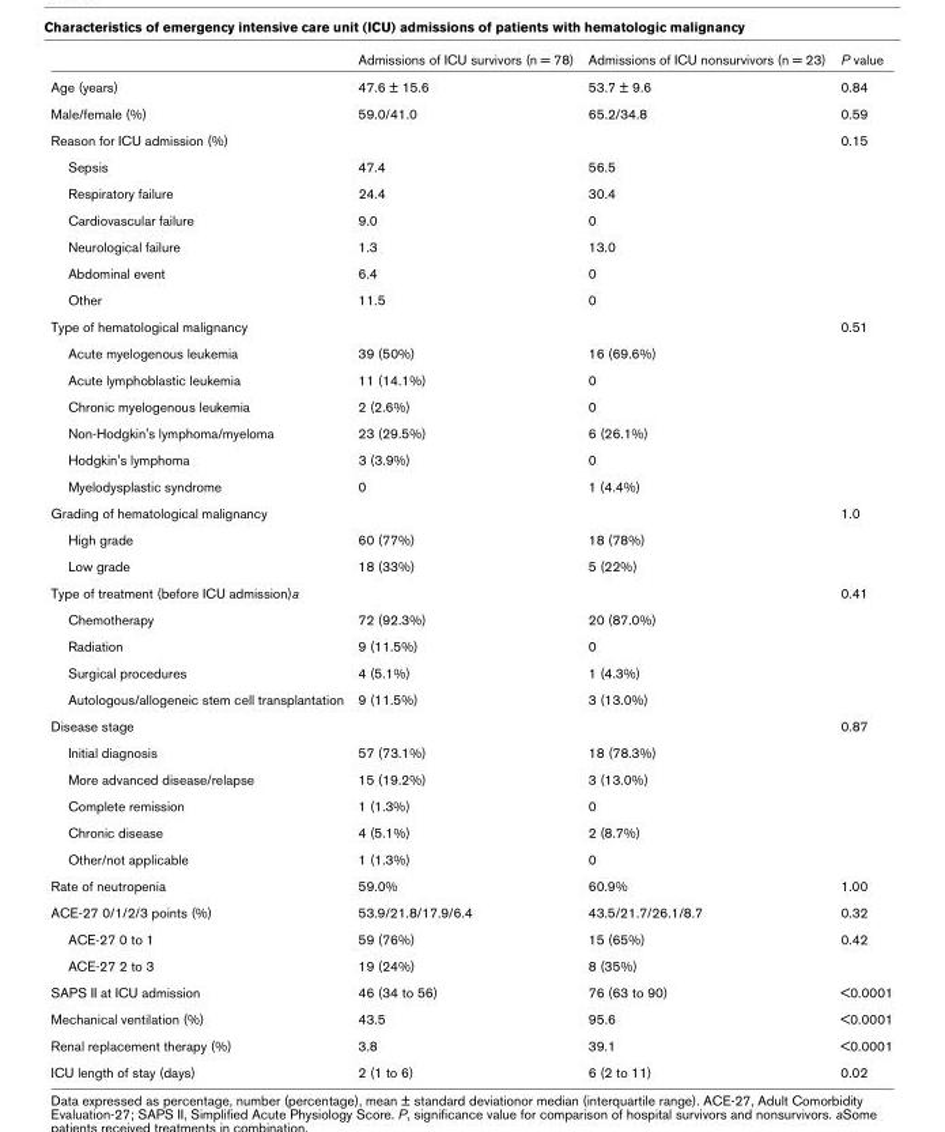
<table><thead><tr><td></td><td>Admissions of ICU survivors (n = 78)</td><td>Admissions of ICU nonsurvivors (n = 23)</td><td>P value</td></tr></thead><tbody><tr><td>Age (years)</td><td>47.6 ± 15.6</td><td>53.7 ± 9.6</td><td>0.84</td></tr><tr><td>Male/female (%)</td><td>59.0/41.0</td><td>65.2/34.8</td><td>0.59</td></tr><tr><td>Reason for ICU admission (%)</td><td></td><td></td><td>0.15</td></tr><tr><td>Sepsis</td><td>47.4</td><td>56.5</td><td></td></tr><tr><td>Respiratory failure</td><td>24.4</td><td>30.4</td><td></td></tr><tr><td>Cardiovascular failure</td><td>9.0</td><td>0</td><td></td></tr><tr><td>Neurological failure</td><td>1.3</td><td>13.0</td><td></td></tr><tr><td>Abdominal event</td><td>6.4</td><td>0</td><td></td></tr><tr><td>Other</td><td>11.5</td><td>0</td><td></td></tr><tr><td>Type of hematological malignancy</td><td></td><td></td><td>0.51</td></tr><tr><td>Acute myelogenous leukemia</td><td>39 (50%)</td><td>16 (69.6%)</td><td></td></tr><tr><td>Acute lymphoblastic leukemia</td><td>11 (14.1%)</td><td>0</td><td></td></tr><tr><td>Chronic myelogenous leukemia</td><td>2 (2.6%)</td><td>0</td><td></td></tr><tr><td>Non-Hodgkin&#x27;s lymphoma/myeloma</td><td>23 (29.5%)</td><td>6 (26.1%)</td><td></td></tr><tr><td>Hodgkin&#x27;s lymphoma</td><td>3 (3.9%)</td><td>0</td><td></td></tr><tr><td>Myelodysplastic syndrome</td><td>0</td><td>1 (4.4%)</td><td></td></tr><tr><td>Grading of hematological malignancy</td><td></td><td></td><td>1.0</td></tr><tr><td>High grade</td><td>60 (77%)</td><td>18 (78%)</td><td></td></tr><tr><td>Low grade</td><td>18 (33%)</td><td>5 (22%)</td><td></td></tr><tr><td>Type of treatment (before ICU admission)a</td><td></td><td></td><td>0.41</td></tr><tr><td>Chemotherapy</td><td>72 (92.3%)</td><td>20 (87.0%)</td><td></td></tr><tr><td>Radiation</td><td>9 (11.5%)</td><td>0</td><td></td></tr><tr><td>Surgical procedures</td><td>4 (5.1%)</td><td>1 (4.3%)</td><td></td></tr><tr><td>Autologous/allogeneic stem cell transplantation</td><td>9 (11.5%)</td><td>3 (13.0%)</td><td></td></tr><tr><td>Disease stage</td><td></td><td></td><td>0.87</td></tr><tr><td>Initial diagnosis</td><td>57 (73.1%)</td><td>18 (78.3%)</td><td></td></tr><tr><td>More advanced disease/relapse</td><td>15 (19.2%)</td><td>3 (13.0%)</td><td></td></tr><tr><td>Complete remission</td><td>1 (1.3%)</td><td>0</td><td></td></tr><tr><td>Chronic disease</td><td>4 (5.1%)</td><td>2 (8.7%)</td><td></td></tr><tr><td>Other/not applicable</td><td>1 (1.3%)</td><td>0</td><td></td></tr><tr><td>Rate of neutropenia</td><td>59.0%</td><td>60.9%</td><td>1.00</td></tr><tr><td>ACE-27 0/1/2/3 points (%)</td><td>53.9/21.8/17.9/6.4</td><td>43.5/21.7/26.1/8.7</td><td>0.32</td></tr><tr><td>ACE-27 0 to 1</td><td>59 (76%)</td><td>15 (65%)</td><td>0.42</td></tr><tr><td>ACE-27 2 to 3</td><td>19 (24%)</td><td>8 (35%)</td><td></td></tr><tr><td>SAPS II at ICU admission</td><td>46 (34 to 56)</td><td>76 (63 to 90)</td><td>&lt;0.0001</td></tr><tr><td>Mechanical ventilation (%)</td><td>43.5</td><td>95.6</td><td>&lt;0.0001</td></tr><tr><td>Renal replacement therapy (%)</td><td>3.8</td><td>39.1</td><td>&lt;0.0001</td></tr><tr><td>ICU length of stay (days)</td><td>2 (1 to 6)</td><td>6 (2 to 11)</td><td>0.02</td></tr></tbody></table>